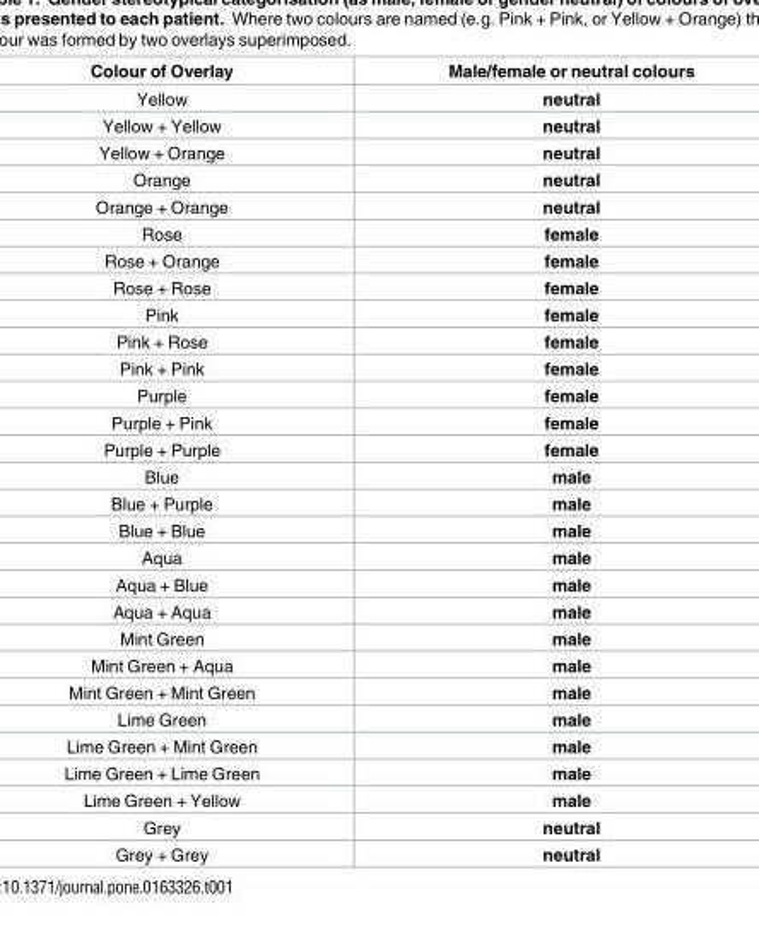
<table><thead><tr><td>Colour of Overlay</td><td>Male/female or neutral colours</td></tr></thead><tbody><tr><td>Yellow</td><td>neutral</td></tr><tr><td>Yellow + Yellow</td><td>neutral</td></tr><tr><td>Yellow + Orange</td><td>neutral</td></tr><tr><td>Orange</td><td>neutral</td></tr><tr><td>Orange + Orange</td><td>neutral</td></tr><tr><td>Rose</td><td>female</td></tr><tr><td>Rose + Orange</td><td>female</td></tr><tr><td>Rose + Rose</td><td>female</td></tr><tr><td>Pink</td><td>female</td></tr><tr><td>Pink + Rose</td><td>female</td></tr><tr><td>Pink + Pink</td><td>female</td></tr><tr><td>Purple</td><td>female</td></tr><tr><td>Purple + Pink</td><td>female</td></tr><tr><td>Purple + Purple</td><td>female</td></tr><tr><td>Blue</td><td>male</td></tr><tr><td>Blue + Purple</td><td>male</td></tr><tr><td>Blue + Blue</td><td>male</td></tr><tr><td>Aqua</td><td>male</td></tr><tr><td>Aqua + Blue</td><td>male</td></tr><tr><td>Aqua + Aqua</td><td>male</td></tr><tr><td>Mint Green</td><td>male</td></tr><tr><td>Mint Green + Aqua</td><td>male</td></tr><tr><td>Mint Green + Mint Green</td><td>male</td></tr><tr><td>Lime Green</td><td>male</td></tr><tr><td>Lime Green + Mint Green</td><td>male</td></tr><tr><td>Lime Green + Lime Green</td><td>male</td></tr><tr><td>Lime Green + Yellow</td><td>male</td></tr><tr><td>Grey</td><td>neutral</td></tr><tr><td>Grey + Grey</td><td>neutral</td></tr></tbody></table>